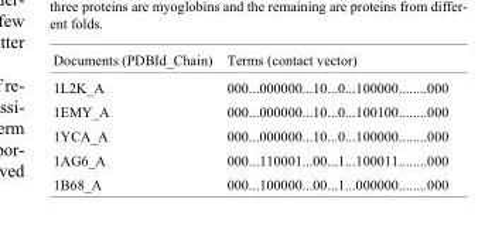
<table><thead><tr><td>Documents (PDBId_Chain)</td><td>Terms (contact vector)</td></tr></thead><tbody><tr><td>1L2K_A</td><td>000...000000...10...0...100000........000</td></tr><tr><td>1EMY_A</td><td>000...000000...10...0...100100........000</td></tr><tr><td>1YCA_A</td><td>000...000000...10...0...100000........000</td></tr><tr><td>1AG6_A</td><td>000...110001...00...1...100011........000</td></tr><tr><td>1B68_A</td><td>000...100000...00...1...000000........000</td></tr></tbody></table>